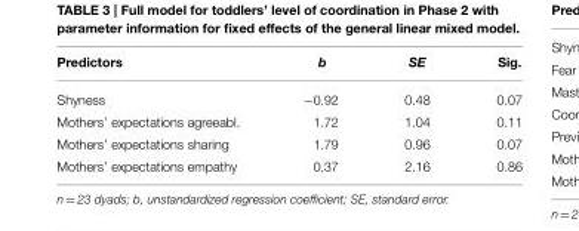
<table><thead><tr><td>Predictors</td><td>b</td><td>SE</td><td>Sig.</td></tr></thead><tbody><tr><td>Shyness</td><td>−0.92</td><td>0.48</td><td>0.07</td></tr><tr><td>Mothers’ expectations agreeabl.</td><td>1.72</td><td>1.04</td><td>0.11</td></tr><tr><td>Mothers’ expectations sharing</td><td>1.79</td><td>0.96</td><td>0.07</td></tr><tr><td>Mothers’ expectations empathy</td><td>0.37</td><td>2.16</td><td>0.86</td></tr></tbody></table>